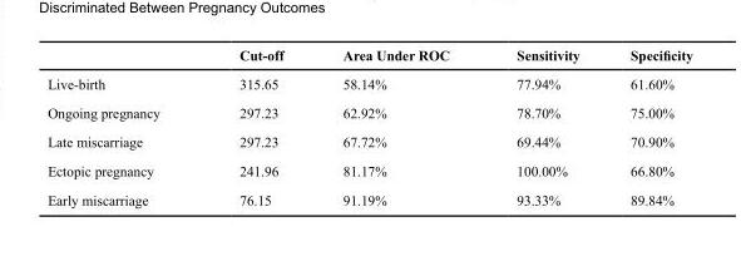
<table><thead><tr><td></td><td>Cut-off</td><td>Area Under ROC</td><td>Sensitivity</td><td>Specificity</td></tr></thead><tbody><tr><td>Live-birth</td><td>315.65</td><td>58.14%</td><td>77.94%</td><td>61.60%</td></tr><tr><td>Ongoing pregnancy</td><td>297.23</td><td>62.92%</td><td>78.70%</td><td>75.00%</td></tr><tr><td>Late miscarriage</td><td>297.23</td><td>67.72%</td><td>69.44%</td><td>70.90%</td></tr><tr><td>Ectopic pregnancy</td><td>241.96</td><td>81.17%</td><td>100.00%</td><td>66.80%</td></tr><tr><td>Early miscarriage</td><td>76.15</td><td>91.19%</td><td>93.33%</td><td>89.84%</td></tr></tbody></table>